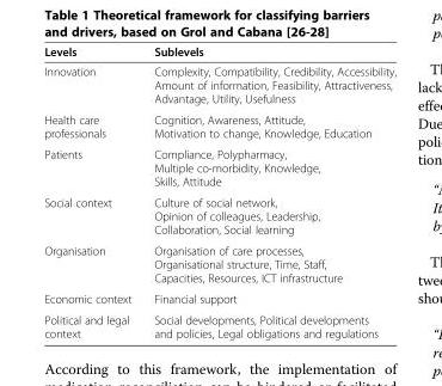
<table><thead><tr><td>Levels</td><td>Sublevels</td></tr></thead><tbody><tr><td>Innovation</td><td>Complexity, Compatibility, Credibility, Accessibility, Amount of information, Feasibility, Attractiveness, Advantage, Utility, Usefulness</td></tr><tr><td>Health care professionals</td><td>Cognition, Awareness, Attitude, Motivation to change, Knowledge, Education</td></tr><tr><td>Patients</td><td>Compliance, Polypharmacy, Multiple co-morbidity, Knowledge, Skills, Attitude</td></tr><tr><td>Social context</td><td>Culture of social network, Opinion of colleagues, Leadership, Collaboration, Social learning</td></tr><tr><td>Organisation</td><td>Organisation of care processes, Organisational structure, Time, Staff, Capacities, Resources, ICT infrastructure</td></tr><tr><td>Economic context</td><td>Financial support</td></tr><tr><td>Political and legal context</td><td>Social developments, Political developments and policies, Legal obligations and regulations</td></tr></tbody></table>